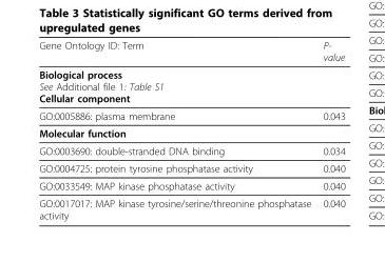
<table><thead><tr><td>Gene Ontology ID: Term</td><td>P- value</td></tr></thead><tbody><tr><td colspan="2">Biological process See Additional file 1: Table S1 Cellular component</td></tr><tr><td>GO:0005886: plasma membrane</td><td>0.043</td></tr><tr><td colspan="2">Molecular function</td></tr><tr><td>GO:0003690: double-stranded DNA binding</td><td>0.034</td></tr><tr><td>GO:0004725: protein tyrosine phosphatase activity</td><td>0.040</td></tr><tr><td>GO:0033549: MAP kinase phosphatase activity</td><td>0.040</td></tr><tr><td>GO:0017017: MAP kinase tyrosine/serine/threonine phosphatase activity</td><td>0.040</td></tr></tbody></table>